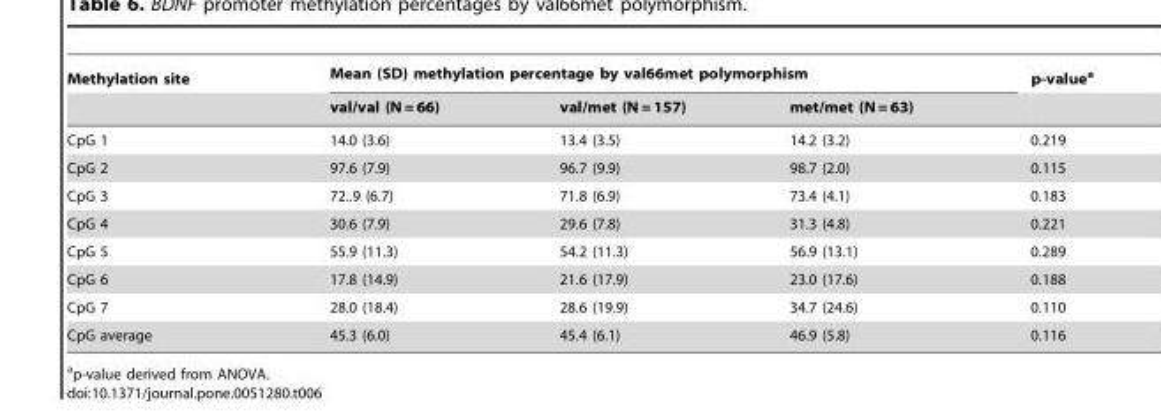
<table><thead><tr><td rowspan="2">Methylation site</td><td colspan="3">Mean (SD) methylation percentage by val66met polymorphism</td><td rowspan="2">p-value<sup>a</sup></td></tr><tr><td>val/val (N = 66)</td><td>val/met (N = 157)</td><td>met/met (N = 63)</td></tr></thead><tbody><tr><td>CpG 1</td><td>14.0 (3.6)</td><td>13.4 (3.5)</td><td>14.2 (3.2)</td><td>0.219</td></tr><tr><td>CpG 2</td><td>97.6 (7.9)</td><td>96.7 (9.9)</td><td>98.7 (2.0)</td><td>0.115</td></tr><tr><td>CpG 3</td><td>72..9 (6.7)</td><td>71.8 (6.9)</td><td>73.4 (4.1)</td><td>0.183</td></tr><tr><td>CpG 4</td><td>30.6 (7.9)</td><td>29.6 (7.8)</td><td>31.3 (4.8)</td><td>0.221</td></tr><tr><td>CpG 5</td><td>55.9 (11.3)</td><td>54.2 (11.3)</td><td>56.9 (13.1)</td><td>0.289</td></tr><tr><td>CpG 6</td><td>17.8 (14.9)</td><td>21.6 (17.9)</td><td>23.0 (17.6)</td><td>0.188</td></tr><tr><td>CpG 7</td><td>28.0 (18.4)</td><td>28.6 (19.9)</td><td>34.7 (24.6)</td><td>0.110</td></tr><tr><td>CpG average</td><td>45.3 (6.0)</td><td>45.4 (6.1)</td><td>46.9 (5.8)</td><td>0.116</td></tr></tbody></table>